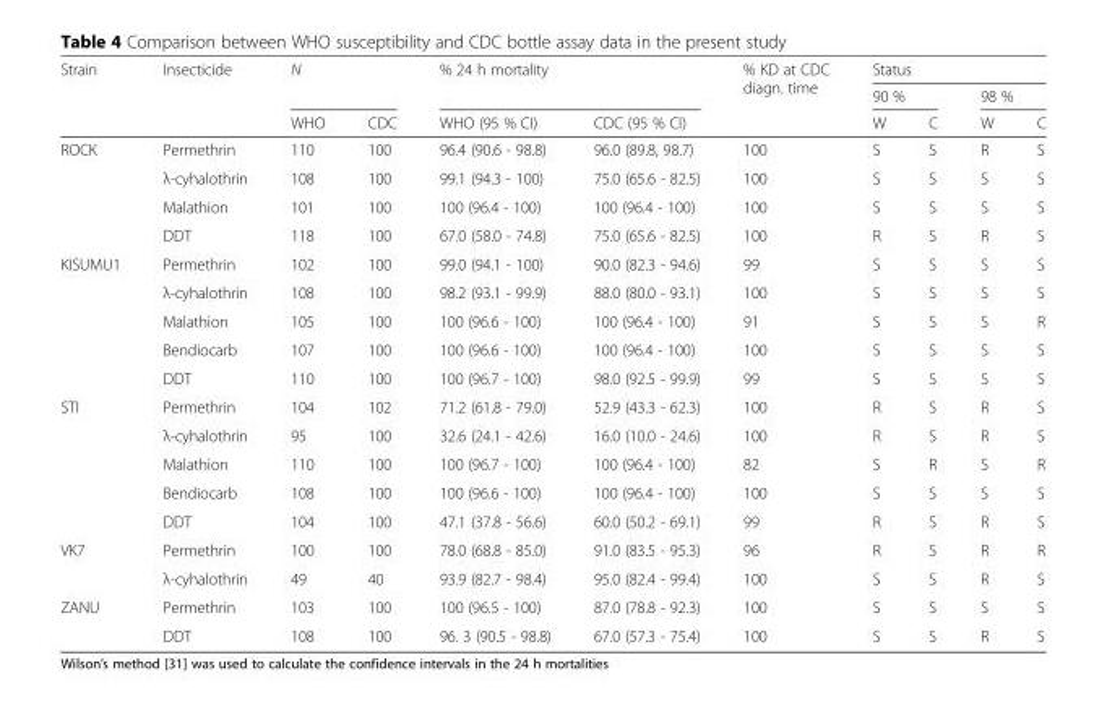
<table><thead><tr><td rowspan="3">Strain</td><td rowspan="3">Insecticide</td><td rowspan="2" colspan="2">N</td><td rowspan="2" colspan="2">% 24 h mortality</td><td rowspan="3">% KD at CDC diagn. time</td><td colspan="4">Status</td></tr><tr><td colspan="2">90 %</td><td colspan="2">98 %</td></tr><tr><td>WHO</td><td>CDC</td><td>WHO (95 % CI)</td><td>CDC (95 % CI)</td><td>W</td><td>C</td><td>W</td><td>C</td></tr></thead><tbody><tr><td rowspan="4">ROCK</td><td>Permethrin</td><td>110</td><td>100</td><td>96.4 (90.6 - 98.8)</td><td>96.0 (89.8, 98.7)</td><td>100</td><td>S</td><td>S</td><td>R</td><td>S</td></tr><tr><td>λ-cyhalothrin</td><td>108</td><td>100</td><td>99.1 (94.3 - 100)</td><td>75.0 (65.6 - 82.5)</td><td>100</td><td>S</td><td>S</td><td>S</td><td>S</td></tr><tr><td>Malathion</td><td>101</td><td>100</td><td>100 (96.4 - 100)</td><td>100 (96.4 - 100)</td><td>100</td><td>S</td><td>S</td><td>S</td><td>S</td></tr><tr><td>DDT</td><td>118</td><td>100</td><td>67.0 (58.0 - 74.8)</td><td>75.0 (65.6 - 82.5)</td><td>100</td><td>R</td><td>S</td><td>R</td><td>S</td></tr><tr><td rowspan="5">KISUMU1</td><td>Permethrin</td><td>102</td><td>100</td><td>99.0 (94.1 - 100)</td><td>90.0 (82.3 - 94.6)</td><td>99</td><td>S</td><td>S</td><td>S</td><td>S</td></tr><tr><td>λ-cyhalothrin</td><td>108</td><td>100</td><td>98.2 (93.1 - 99.9)</td><td>88.0 (80.0 - 93.1)</td><td>100</td><td>S</td><td>S</td><td>S</td><td>S</td></tr><tr><td>Malathion</td><td>105</td><td>100</td><td>100 (96.6 - 100)</td><td>100 (96.4 - 100)</td><td>91</td><td>S</td><td>S</td><td>S</td><td>R</td></tr><tr><td>Bendiocarb</td><td>107</td><td>100</td><td>100 (96.6 - 100)</td><td>100 (96.4 - 100)</td><td>100</td><td>S</td><td>S</td><td>S</td><td>S</td></tr><tr><td>DDT</td><td>110</td><td>100</td><td>100 (96.7 - 100)</td><td>98.0 (92.5 - 99.9)</td><td>99</td><td>S</td><td>S</td><td>S</td><td>S</td></tr><tr><td rowspan="5">STI</td><td>Permethrin</td><td>104</td><td>102</td><td>71.2 (61.8 - 79.0)</td><td>52.9 (43.3 - 62.3)</td><td>100</td><td>R</td><td>S</td><td>R</td><td>S</td></tr><tr><td>λ-cyhalothrin</td><td>95</td><td>100</td><td>32.6 (24.1 - 42.6)</td><td>16.0 (10.0 - 24.6)</td><td>100</td><td>R</td><td>S</td><td>R</td><td>S</td></tr><tr><td>Malathion</td><td>110</td><td>100</td><td>100 (96.7 - 100)</td><td>100 (96.4 - 100)</td><td>82</td><td>S</td><td>R</td><td>S</td><td>R</td></tr><tr><td>Bendiocarb</td><td>108</td><td>100</td><td>100 (96.6 - 100)</td><td>100 (96.4 - 100)</td><td>100</td><td>S</td><td>S</td><td>S</td><td>S</td></tr><tr><td>DDT</td><td>104</td><td>100</td><td>47.1 (37.8 - 56.6)</td><td>60.0 (50.2 - 69.1)</td><td>99</td><td>R</td><td>S</td><td>R</td><td>S</td></tr><tr><td rowspan="2">VK7</td><td>Permethrin</td><td>100</td><td>100</td><td>78.0 (68.8 - 85.0)</td><td>91.0 (83.5 - 95.3)</td><td>96</td><td>R</td><td>S</td><td>R</td><td>R</td></tr><tr><td>λ-cyhalothrin</td><td>49</td><td>40</td><td>93.9 (82.7 - 98.4)</td><td>95.0 (82.4 - 99.4)</td><td>100</td><td>S</td><td>S</td><td>R</td><td>S</td></tr><tr><td rowspan="2">ZANU</td><td>Permethrin</td><td>103</td><td>100</td><td>100 (96.5 - 100)</td><td>87.0 (78.8 - 92.3)</td><td>100</td><td>S</td><td>S</td><td>S</td><td>S</td></tr><tr><td>DDT</td><td>108</td><td>100</td><td>96. 3 (90.5 - 98.8)</td><td>67.0 (57.3 - 75.4)</td><td>100</td><td>S</td><td>S</td><td>R</td><td>S</td></tr></tbody></table>